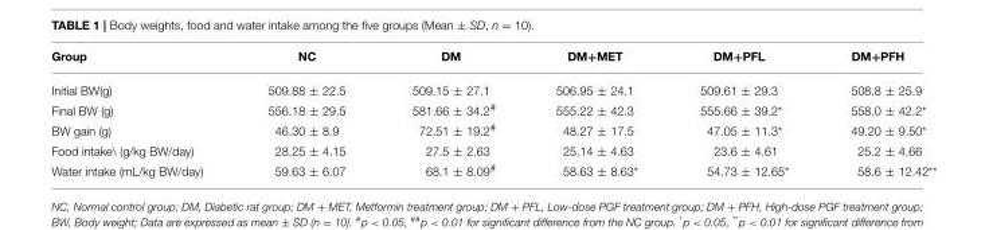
<table><thead><tr><td>Group</td><td>NC</td><td>DM</td><td>DM+MET</td><td>DM+PFL</td><td>DM+PFH</td></tr></thead><tbody><tr><td>Initial BW(g)</td><td>509.88 ± 22.5</td><td>509.15 ± 27.1</td><td>506.95 ± 24.1</td><td>509.61 ± 29.3</td><td>508.8 ± 25.9</td></tr><tr><td>Final BW (g)</td><td>556.18 ± 29.5</td><td>581.66 ± 34.2<sup>#</sup></td><td>555.22 ± 42.3</td><td>555.66 ± 39.2*</td><td>558.0 ± 42.2*</td></tr><tr><td>BW gain (g)</td><td>46.30 ± 8.9</td><td>72.51 ± 19.2<sup>#</sup></td><td>48.27 ± 17.5</td><td>47.05 ± 11.3*</td><td>49.20 ± 9.50*</td></tr><tr><td>Food intake\ (g/kg BW/day)</td><td>28.25 ± 4.15</td><td>27.5 ± 2.63</td><td>25.14 ± 4.63</td><td>23.6 ± 4.61</td><td>25.2 ± 4.66</td></tr><tr><td>Water intake (mL/kg BW/day)</td><td>59.63 ± 6.07</td><td>68.1 ± 8.09<sup>#</sup></td><td>58.63 ± 8.63*</td><td>54.73 ± 12.65*</td><td>58.6 ± 12.42**</td></tr></tbody></table>